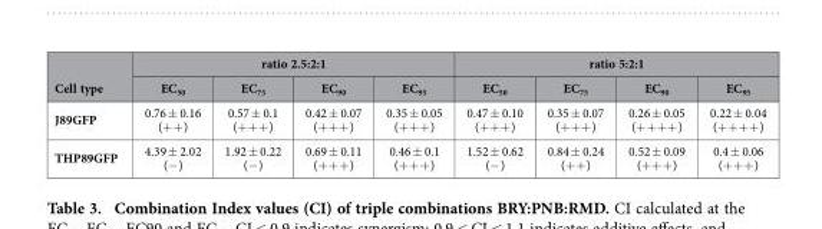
<table><thead><tr><td rowspan="2">Cell type</td><td colspan="4">ratio 2.5:2:1</td><td colspan="4">ratio 5:2:1</td></tr><tr><td>EC<sub>50</sub></td><td>EC<sub>75</sub></td><td>EC<sub>90</sub></td><td>EC<sub>95</sub></td><td>EC<sub>50</sub></td><td>EC<sub>75</sub></td><td>EC<sub>90</sub></td><td>EC<sub>95</sub></td></tr></thead><tbody><tr><td>J89GFP</td><td>0.76 ± 0.16 (+ + )</td><td>0.57 ± 0.1 (+ + + )</td><td>0.42 ± 0.07 (+ + + )</td><td>0.35 ± 0.05 (+ + + )</td><td>0.47 ± 0.10 (+ + + )</td><td>0.35 ± 0.07 (+ + + )</td><td>0.26 ± 0.05 (+ + + + )</td><td>0.22 ± 0.04 (+ + + + )</td></tr><tr><td>THP89GFP</td><td>4.39 ± 2.02 (− )</td><td>1.92 ± 0.22 (− )</td><td>0.69 ± 0.11 (+ + + )</td><td>0.46 ± 0.1 (+ + + )</td><td>1.52 ± 0.62 (− )</td><td>0.84 ± 0.24 (+ + )</td><td>0.52 ± 0.09 (+ + + )</td><td>0.4 ± 0.06 (+ + + )</td></tr></tbody></table>